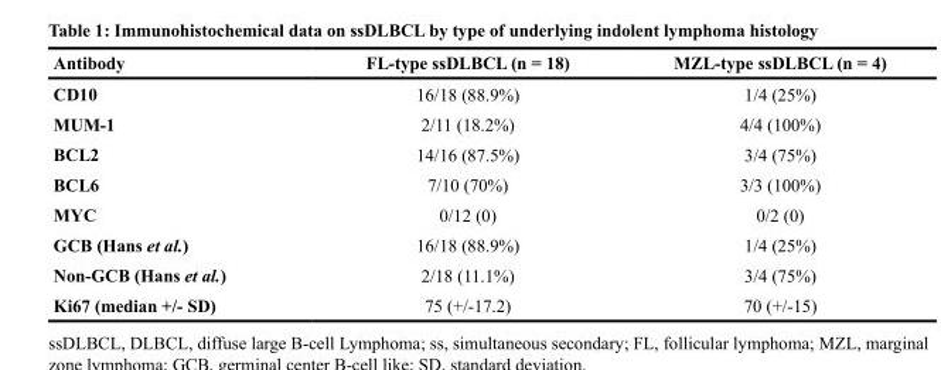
<table><thead><tr><td>Antibody</td><td>FL-type ssDLBCL (n = 18)</td><td>MZL-type ssDLBCL (n = 4)</td></tr></thead><tbody><tr><td>CD10</td><td>16/18 (88.9%)</td><td>1/4 (25%)</td></tr><tr><td>MUM-1</td><td>2/11 (18.2%)</td><td>4/4 (100%)</td></tr><tr><td>BCL2</td><td>14/16 (87.5%)</td><td>3/4 (75%)</td></tr><tr><td>BCL6</td><td>7/10 (70%)</td><td>3/3 (100%)</td></tr><tr><td>MYC</td><td>0/12 (0)</td><td>0/2 (0)</td></tr><tr><td>GCB (Hans et al.)</td><td>16/18 (88.9%)</td><td>1/4 (25%)</td></tr><tr><td>Non-GCB (Hans et al.)</td><td>2/18 (11.1%)</td><td>3/4 (75%)</td></tr><tr><td>Ki67 (median +/- SD)</td><td>75 (+/-17.2)</td><td>70 (+/-15)</td></tr></tbody></table>